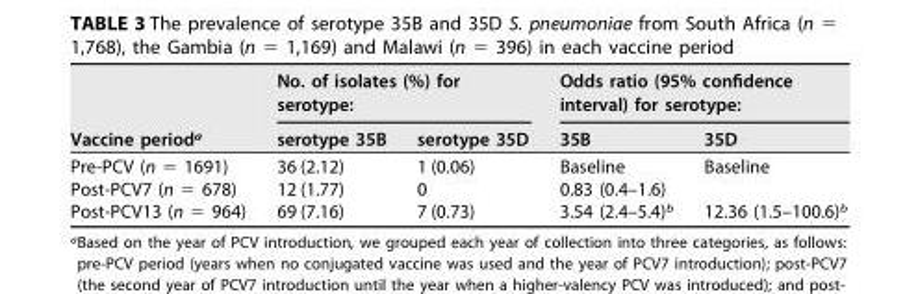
<table><thead><tr><td rowspan="2">Vaccine period<sup>a</sup></td><td colspan="2">No. of isolates (%) for serotype:</td><td colspan="2">Odds ratio (95% confidence interval) for serotype:</td></tr><tr><td>serotype 35B</td><td>serotype 35D</td><td>35B</td><td>35D</td></tr></thead><tbody><tr><td>Pre-PCV (n = 1691)</td><td>36 (2.12)</td><td>1 (0.06)</td><td>Baseline</td><td>Baseline</td></tr><tr><td>Post-PCV7 (n = 678)</td><td>12 (1.77)</td><td>0</td><td>0.83 (0.4–1.6)</td><td></td></tr><tr><td>Post-PCV13 (n = 964)</td><td>69 (7.16)</td><td>7 (0.73)</td><td>3.54 (2.4–5.4)<sup>b</sup></td><td>12.36 (1.5–100.6)<sup>b</sup></td></tr></tbody></table>